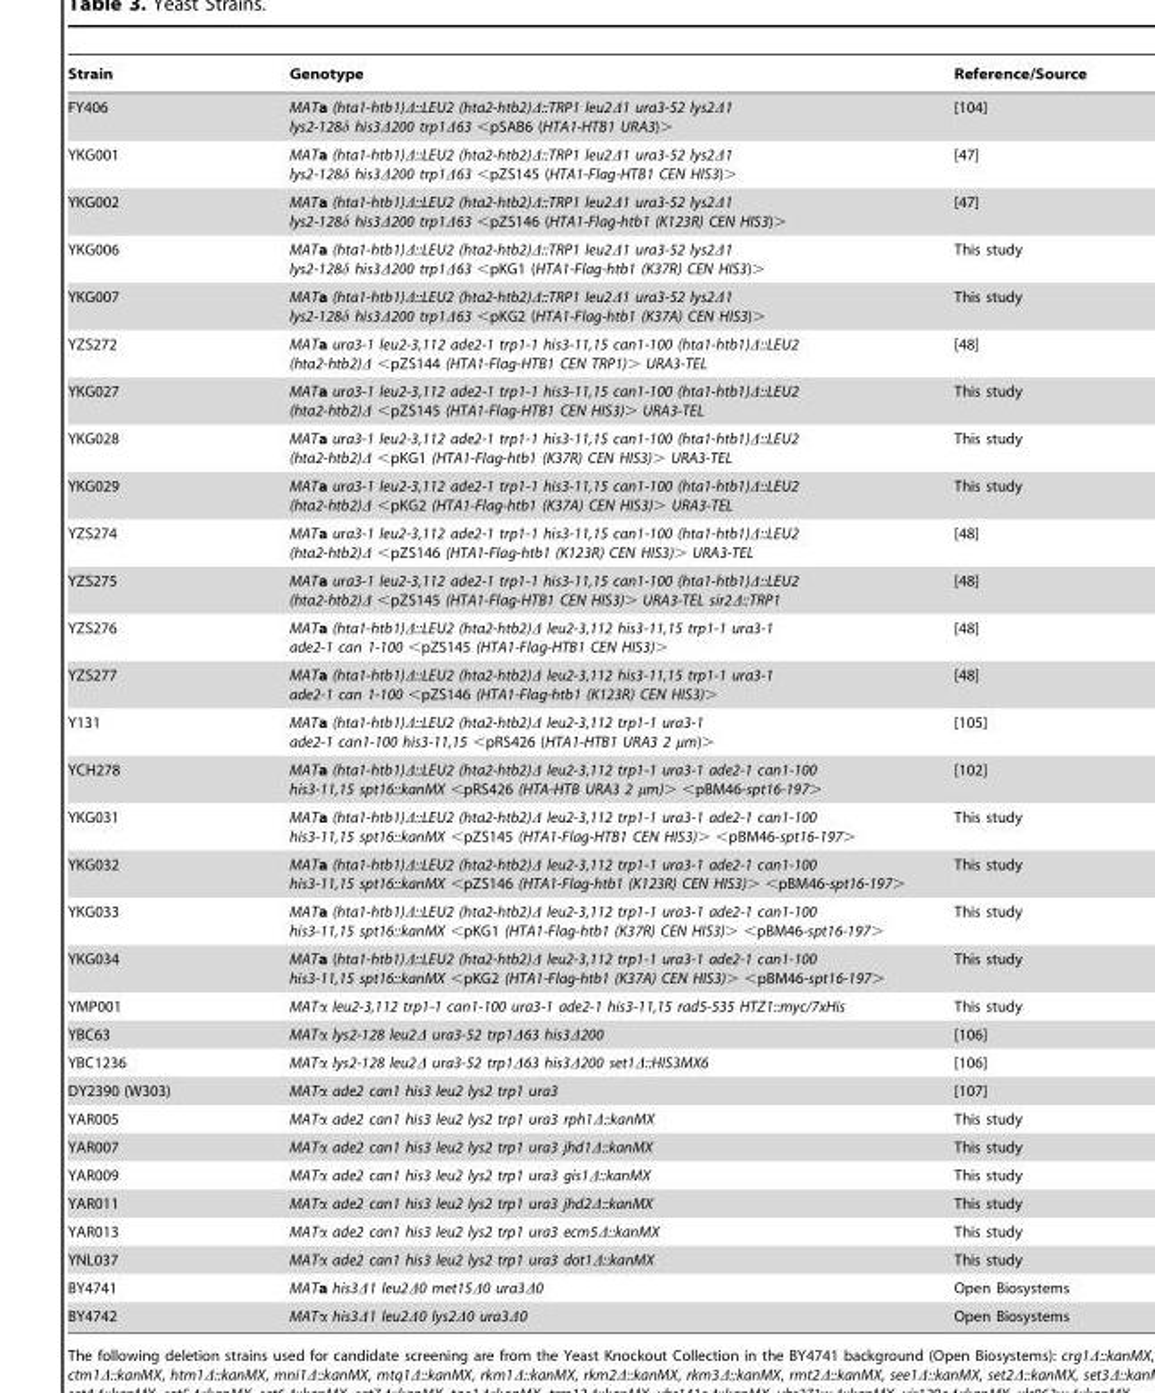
<table><thead><tr><td>Strain</td><td>Genotype</td><td>Reference/Source</td></tr></thead><tbody><tr><td>FY406</td><td>MATa (hta1-htb1)Δ::LEU2 (hta2-htb2)Δ::TRP1 leu2Δ1 ura3-52 lys2Δ1 lys2-128δ his3Δ200 trp1Δ63 &lt;pSAB6 (HTA1-HTB1 URA3)&gt;</td><td>[104]</td></tr><tr><td>YKG001</td><td>MATa (hta1-htb1)Δ::LEU2 (hta2-htb2)Δ::TRP1 leu2Δ1 ura3-52 lys2Δ1 lys2-128δ his3Δ200 trp1Δ63 &lt;pZS145 (HTA1-Flag-HTB1 CEN HIS3)&gt;</td><td>[47]</td></tr><tr><td>YKG002</td><td>MATa (hta1-htb1)Δ::LEU2 (hta2-htb2)Δ::TRP1 leu2Δ1 ura3-52 lys2Δ1 lys2-128δ his3Δ200 trp1Δ63 &lt;pZS146 (HTA1-Flag-htb1 (K123R) CEN HIS3)&gt;</td><td>[47]</td></tr><tr><td>YKG006</td><td>MATa (hta1-htb1)Δ::LEU2 (hta2-htb2)Δ::TRP1 leu2Δ1 ura3-52 lys2Δ1 lys2-128δ his3Δ200 trp1Δ63 &lt;pKG1 (HTA1-Flag-htb1 (K37R) CEN HIS3)&gt;</td><td>This study</td></tr><tr><td>YKG007</td><td>MATa (hta1-htb1)Δ::LEU2 (hta2-htb2)Δ::TRP1 leu2Δ1 ura3-52 lys2Δ1 lys2-128δ his3Δ200 trp1Δ63 &lt;pKG2 (HTA1-Flag-htb1 (K37A) CEN HIS3)&gt;</td><td>This study</td></tr><tr><td>YZS272</td><td>MATa ura3-1 leu2-3,112 ade2-1 trp1-1 his3-11,15 can1-100 (hta1-htb1)Δ::LEU2 (hta2-htb2)Δ &lt;pZS144 (HTA1-Flag-HTB1 CEN TRP1)&gt; URA3-TEL</td><td>[48]</td></tr><tr><td>YKG027</td><td>MATa ura3-1 leu2-3,112 ade2-1 trp1-1 his3-11,15 can1-100 (hta1-htb1)Δ::LEU2 (hta2-htb2)Δ &lt;pZS145 (HTA1-Flag-HTB1 CEN HIS3)&gt; URA3-TEL</td><td>This study</td></tr><tr><td>YKG028</td><td>MATa ura3-1 leu2-3,112 ade2-1 trp1-1 his3-11,15 can1-100 (hta1-htb1)Δ::LEU2 (hta2-htb2)Δ &lt;pKG1 (HTA1-Flag-htb1 (K37R) CEN HIS3)&gt; URA3-TEL</td><td>This study</td></tr><tr><td>YKG029</td><td>MATa ura3-1 leu2-3,112 ade2-1 trp1-1 his3-11,15 can1-100 (hta1-htb1)Δ::LEU2 (hta2-htb2)Δ &lt;pKG2 (HTA1-Flag-htb1 (K37A) CEN HIS3)&gt; URA3-TEL</td><td>This study</td></tr><tr><td>YZS274</td><td>MATa ura3-1 leu2-3,112 ade2-1 trp1-1 his3-11,15 can1-100 (hta1-htb1)Δ::LEU2 (hta2-htb2)Δ &lt;pZS146 (HTA1-Flag-htb1 (K123R) CEN HIS3)&gt; URA3-TEL</td><td>[48]</td></tr><tr><td>YZS275</td><td>MATa ura3-1 leu2-3,112 ade2-1 trp1-1 his3-11,15 can1-100 (hta1-htb1)Δ::LEU2 (hta2-htb2)Δ &lt;pZS145 (HTA1-Flag-HTB1 CEN HIS3)&gt; URA3-TEL sir2Δ::TRP1</td><td>[48]</td></tr><tr><td>YZS276</td><td>MATa (hta1-htb1)Δ::LEU2 (hta2-htb2)Δ leu2-3,112 his3-11,15 trp1-1 ura3-1 ade2-1 can 1-100 &lt;pZS145 (HTA1-Flag-HTB1 CEN HIS3)&gt;</td><td>[48]</td></tr><tr><td>YZS277</td><td>MATa (hta1-htb1)Δ::LEU2 (hta2-htb2)Δ leu2-3,112 his3-11,15 trp1-1 ura3-1 ade2-1 can 1-100 &lt;pZS146 (HTA1-Flag-htb1 (K123R) CEN HIS3)&gt;</td><td>[48]</td></tr><tr><td>Y131</td><td>MATa (hta1-htb1)Δ::LEU2 (hta2-htb2)Δ leu2-3,112 trp1-1 ura3-1 ade2-1 can1-100 his3-11,15 &lt;pRS426 (HTA1-HTB1 URA3 2 µm)&gt;</td><td>[105]</td></tr><tr><td>YCH278</td><td>MATa (hta1-htb1)Δ::LEU2 (hta2-htb2)Δ leu2-3,112 trp1-1 ura3-1 ade2-1 can1-100 his3-11,15 spt16::kanMX &lt;pRS426 (HTA-HTB URA3 2 µm)&gt; &lt;pBM46-spt16-197&gt;</td><td>[102]</td></tr><tr><td>YKG031</td><td>MATa (hta1-htb1)Δ::LEU2 (hta2-htb2)Δ leu2-3,112 trp1-1 ura3-1 ade2-1 can1-100 his3-11,15 spt16::kanMX &lt;pZS145 (HTA1-Flag-HTB1 CEN HIS3)&gt; &lt;pBM46-spt16-197&gt;</td><td>This study</td></tr><tr><td>YKG032</td><td>MATa (hta1-htb1)Δ::LEU2 (hta2-htb2)Δ leu2-3,112 trp1-1 ura3-1 ade2-1 can1-100 his3-11,15 spt16::kanMX &lt;pZS146 (HTA1-Flag-htb1 (K123R) CEN HIS3)&gt; &lt;pBM46-spt16-197&gt;</td><td>This study</td></tr><tr><td>YKG033</td><td>MATa (hta1-htb1)Δ::LEU2 (hta2-htb2)Δ leu2-3,112 trp1-1 ura3-1 ade2-1 can1-100 his3-11,15 spt16::kanMX &lt;pKG1 (HTA1-Flag-htb1 (K37R) CEN HIS3)&gt; &lt;pBM46-spt16-197&gt;</td><td>This study</td></tr><tr><td>YKG034</td><td>MATa (hta1-htb1)Δ::LEU2 (hta2-htb2)Δ leu2-3,112 trp1-1 ura3-1 ade2-1 can1-100 his3-11,15 spt16::kanMX &lt;pKG2 (HTA1-Flag-htb1 (K37A) CEN HIS3)&gt; &lt;pBM46-spt16-197&gt;</td><td>This study</td></tr><tr><td>YMP001</td><td>MATα leu2-3,112 trp1-1 can1-100 ura3-1 ade2-1 his3-11,15 rad5-535 HTZ1::myc/7xHis</td><td>This study</td></tr><tr><td>YBC63</td><td>MATα lys2-128 leu2Δ ura3-52 trp1Δ63 his3Δ200</td><td>[106]</td></tr><tr><td>YBC1236</td><td>MATα lys2-128 leu2Δ ura3-52 trp1Δ63 his3Δ200 set1Δ::HIS3MX6</td><td>[106]</td></tr><tr><td>DY2390 (W303)</td><td>MATα ade2 can1 his3 leu2 lys2 trp1 ura3</td><td>[107]</td></tr><tr><td>YAR005</td><td>MATα ade2 can1 his3 leu2 lys2 trp1 ura3 rph1Δ::kanMX</td><td>This study</td></tr><tr><td>YAR007</td><td>MATα ade2 can1 his3 leu2 lys2 trp1 ura3 jhd1Δ::kanMX</td><td>This study</td></tr><tr><td>YAR009</td><td>MATα ade2 can1 his3 leu2 lys2 trp1 ura3 gis1Δ::kanMX</td><td>This study</td></tr><tr><td>YAR011</td><td>MATα ade2 can1 his3 leu2 lys2 trp1 ura3 jhd2Δ::kanMX</td><td>This study</td></tr><tr><td>YAR013</td><td>MATα ade2 can1 his3 leu2 lys2 trp1 ura3 ecm5Δ::kanMX</td><td>This study</td></tr><tr><td>YNL037</td><td>MATα ade2 can1 his3 leu2 lys2 trp1 ura3 dot1Δ::kanMX</td><td>This study</td></tr><tr><td>BY4741</td><td>MATa his3Δ1 leu2Δ0 met15Δ0 ura3Δ0</td><td>Open Biosystems</td></tr><tr><td>BY4742</td><td>MATα his3Δ1 leu2Δ0 lys2Δ0 ura3Δ0</td><td>Open Biosystems</td></tr></tbody></table>